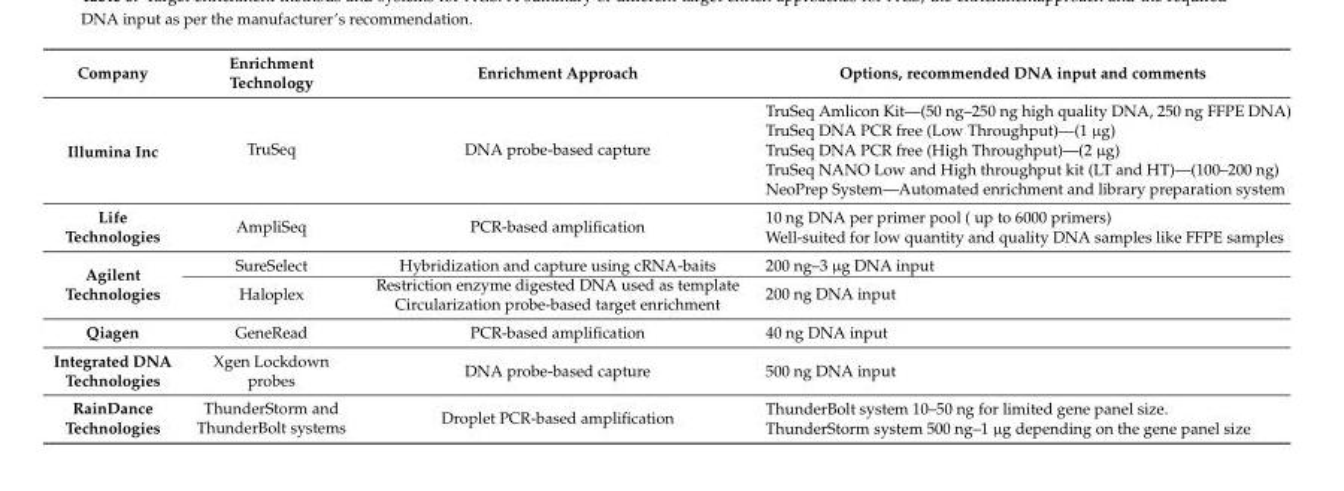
<table><thead><tr><td>Company</td><td>Enrichment Technology</td><td>Enrichment Approach</td><td>Options, recommended DNA input and comments</td></tr></thead><tbody><tr><td rowspan="5">Illumina Inc</td><td rowspan="5">TruSeq</td><td rowspan="5">DNA probe-based capture</td><td>TruSeq Amlicon Kit—(50 ng–250 ng high quality DNA, 250 ng FFPE DNA)</td></tr><tr><td>TruSeq DNA PCR free (Low Throughput)—(1 µg)</td></tr><tr><td>TruSeq DNA PCR free (High Throughput)—(2 µg)</td></tr><tr><td>TruSeq NANO Low and High throughput kit (LT and HT)—(100–200 ng)</td></tr><tr><td>NeoPrep System—Automated enrichment and library preparation system</td></tr><tr><td rowspan="2">Life Technologies</td><td rowspan="2">AmpliSeq</td><td rowspan="2">PCR-based amplification</td><td>10 ng DNA per primer pool ( up to 6000 primers)</td></tr><tr><td>Well-suited for low quantity and quality DNA samples like FFPE samples</td></tr><tr><td rowspan="3">Agilent Technologies</td><td>SureSelect</td><td>Hybridization and capture using cRNA-baits</td><td>200 ng–3 µg DNA input</td></tr><tr><td rowspan="2">Haloplex</td><td>Restriction enzyme digested DNA used as template</td><td rowspan="2">200 ng DNA input</td></tr><tr><td>Circularization probe-based target enrichment</td></tr><tr><td>Qiagen</td><td>GeneRead</td><td>PCR-based amplification</td><td>40 ng DNA input</td></tr><tr><td>Integrated DNA Technologies</td><td>Xgen Lockdown probes</td><td>DNA probe-based capture</td><td>500 ng DNA input</td></tr><tr><td rowspan="2">RainDance Technologies</td><td rowspan="2">ThunderStorm and ThunderBolt systems</td><td rowspan="2">Droplet PCR-based amplification</td><td>ThunderBolt system 10–50 ng for limited gene panel size.</td></tr><tr><td>ThunderStorm system 500 ng–1 µg depending on the gene panel size</td></tr></tbody></table>